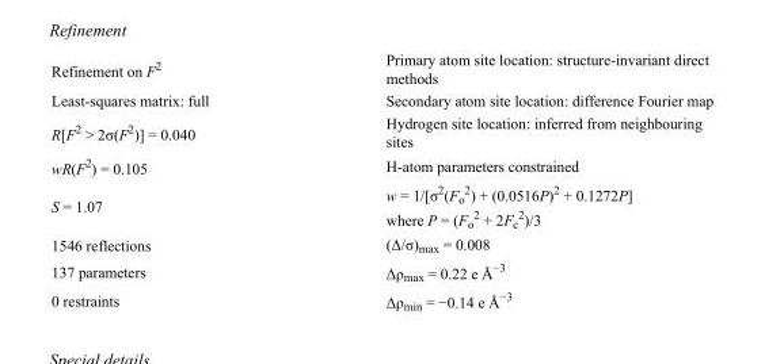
<table><tbody><tr><td>Refinement on F<sup>2</sup></td><td>Primary atom site location: structure-invariant direct methods</td></tr><tr><td>Least-squares matrix: full</td><td>Secondary atom site location: difference Fourier map</td></tr><tr><td>R[F<sup>2</sup> &gt; 2σ(F<sup>2</sup>)] = 0.040</td><td>Hydrogen site location: inferred from neighbouring sites</td></tr><tr><td>wR(F<sup>2</sup>) = 0.105</td><td>H-atom parameters constrained</td></tr><tr><td>S = 1.07</td><td>w = 1/[σ<sup>2</sup>(F<sub>o</sub> <sup>2</sup>) + (0.0516P)<sup>2</sup> + 0.1272P] where P = (F<sub>o</sub> <sup>2</sup> + 2F<sub>c</sub> <sup>2</sup>)/3</td></tr><tr><td>1546 reflections</td><td>(Δ/σ)<sub>max</sub> = 0.008</td></tr><tr><td>137 parameters</td><td>Δρ<sub>max</sub> = 0.22 e Å<sup>−3</sup></td></tr><tr><td>0 restraints</td><td>Δρ<sub>min</sub> = −0.14 e Å<sup>−3</sup></td></tr></tbody></table>